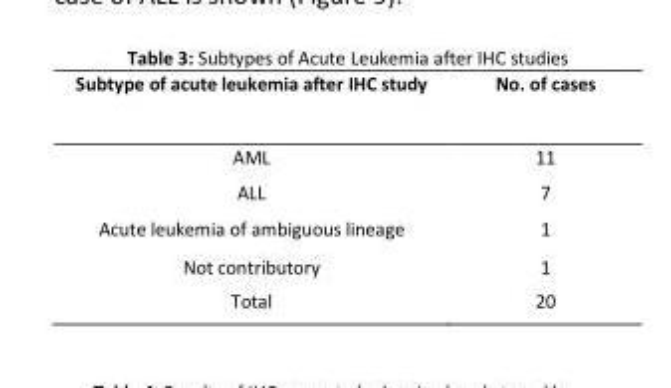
<table><thead><tr><td>Subtype of acute leukemia after IHC study</td><td>No. of cases</td></tr></thead><tbody><tr><td>AML</td><td>11</td></tr><tr><td>ALL</td><td>7</td></tr><tr><td>Acute leukemia of ambiguous lineage</td><td>1</td></tr><tr><td>Not contributory</td><td>1</td></tr><tr><td>Total</td><td>20</td></tr></tbody></table>